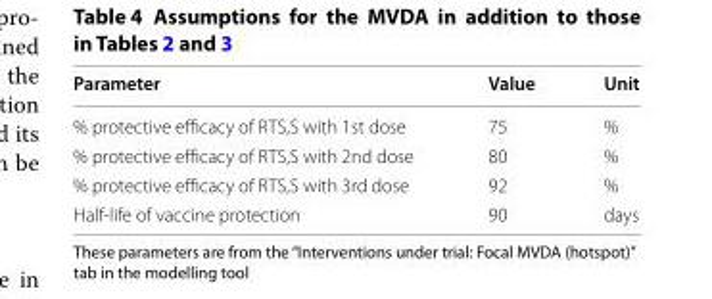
<table><thead><tr><td>Parameter</td><td>Value</td><td>Unit</td></tr></thead><tbody><tr><td>% protective efficacy of RTS,S with 1st dose</td><td>75</td><td>%</td></tr><tr><td>% protective efficacy of RTS,S with 2nd dose</td><td>80</td><td>%</td></tr><tr><td>% protective efficacy of RTS,S with 3rd dose</td><td>92</td><td>%</td></tr><tr><td>Half‑life of vaccine protection</td><td>90</td><td>days</td></tr></tbody></table>